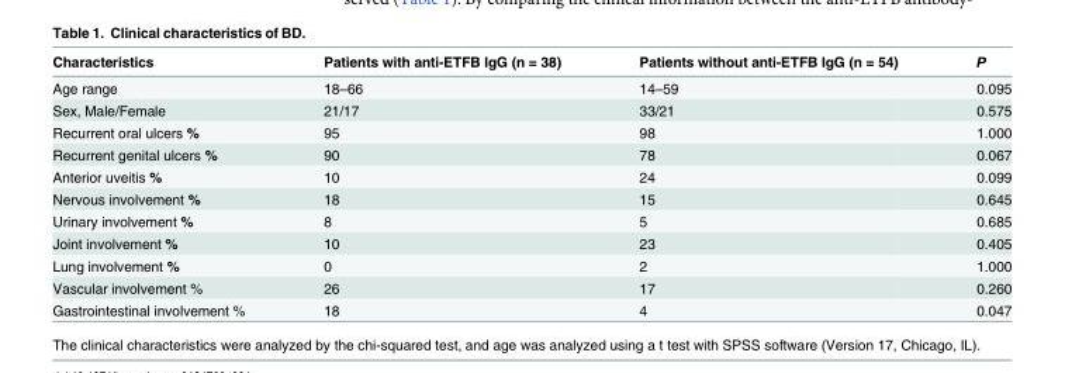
<table><thead><tr><td>Characteristics</td><td>Patients with anti-ETFB IgG (n = 38)</td><td>Patients without anti-ETFB IgG (n = 54)</td><td>P</td></tr></thead><tbody><tr><td>Age range</td><td>18–66</td><td>14–59</td><td>0.095</td></tr><tr><td>Sex, Male/Female</td><td>21/17</td><td>33/21</td><td>0.575</td></tr><tr><td>Recurrent oral ulcers %</td><td>95</td><td>98</td><td>1.000</td></tr><tr><td>Recurrent genital ulcers %</td><td>90</td><td>78</td><td>0.067</td></tr><tr><td>Anterior uveitis %</td><td>10</td><td>24</td><td>0.099</td></tr><tr><td>Nervous involvement %</td><td>18</td><td>15</td><td>0.645</td></tr><tr><td>Urinary involvement %</td><td>8</td><td>5</td><td>0.685</td></tr><tr><td>Joint involvement %</td><td>10</td><td>23</td><td>0.405</td></tr><tr><td>Lung involvement %</td><td>0</td><td>2</td><td>1.000</td></tr><tr><td>Vascular involvement %</td><td>26</td><td>17</td><td>0.260</td></tr><tr><td>Gastrointestinal involvement %</td><td>18</td><td>4</td><td>0.047</td></tr></tbody></table>